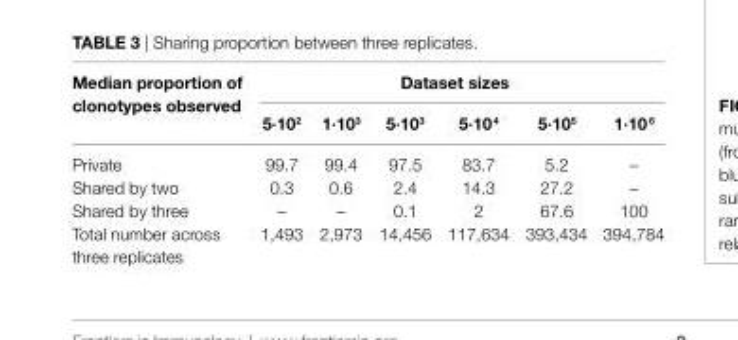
<table><thead><tr><td rowspan="2">Median proportion of clonotypes observed</td><td colspan="6">Dataset sizes</td></tr><tr><td>5·10<sup>2</sup></td><td>1·10<sup>3</sup></td><td>5·10<sup>3</sup></td><td>5·10 <sup>4</sup></td><td>5·10<sup>5</sup></td><td>1·10 <sup>6</sup></td></tr></thead><tbody><tr><td>Private</td><td>99.7</td><td>99.4</td><td>97.5</td><td>83.7</td><td>5.2</td><td>–</td></tr><tr><td>Shared by two</td><td>0.3</td><td>0.6</td><td>2.4</td><td>14.3</td><td>27.2</td><td>–</td></tr><tr><td>Shared by three</td><td>–</td><td>–</td><td>0.1</td><td>2</td><td>67.6</td><td>100</td></tr><tr><td>Total number across three replicates</td><td>1,493</td><td>2,973</td><td>14,456</td><td>117,634</td><td>393,434</td><td>394,784</td></tr></tbody></table>